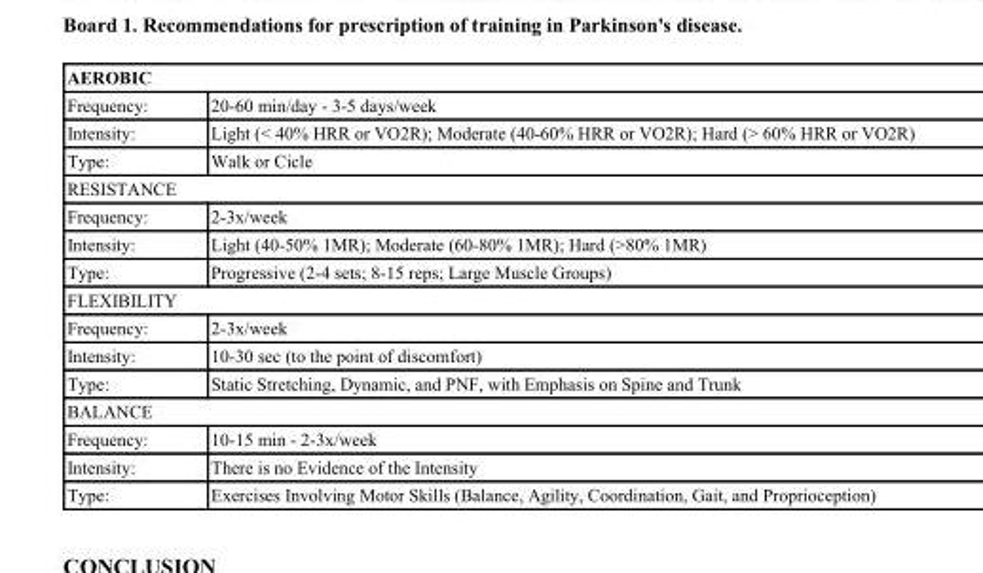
<table><thead><tr><td colspan="2">AEROBIC</td></tr><tr><td>Frequency:</td><td>20-60 min/day - 3-5 days/week</td></tr></thead><tbody><tr><td>Intensity:</td><td>Light (&lt; 40% HRR or VO2R); Moderate (40-60% HRR or VO2R); Hard (&gt; 60% HRR or VO2R)</td></tr><tr><td>Type:</td><td>Walk or Cicle</td></tr><tr><td colspan="2">RESISTANCE</td></tr><tr><td>Frequency:</td><td>2-3x/week</td></tr><tr><td>Intensity:</td><td>Light (40-50% 1MR); Moderate (60-80% 1MR); Hard (&gt;80% 1MR)</td></tr><tr><td>Type:</td><td>Progressive (2-4 sets; 8-15 reps; Large Muscle Groups)</td></tr><tr><td colspan="2">FLEXIBILITY</td></tr><tr><td>Frequency:</td><td>2-3x/week</td></tr><tr><td>Intensity:</td><td>10-30 sec (to the point of discomfort)</td></tr><tr><td>Type:</td><td>Static Stretching, Dynamic, and PNF, with Emphasis on Spine and Trunk</td></tr><tr><td colspan="2">BALANCE</td></tr><tr><td>Frequency:</td><td>10-15 min - 2-3x/week</td></tr><tr><td>Intensity:</td><td>There is no Evidence of the Intensity</td></tr><tr><td>Type:</td><td>Exercises Involving Motor Skills (Balance, Agility, Coordination, Gait, and Proprioception)</td></tr></tbody></table>